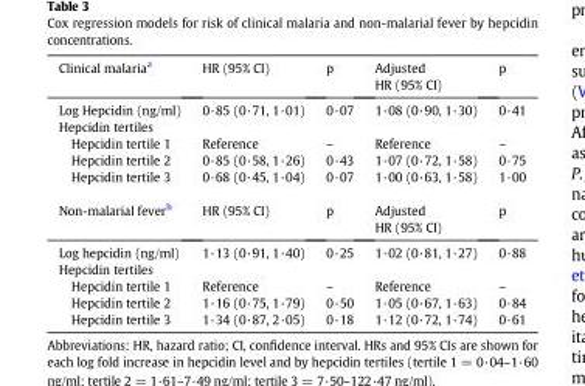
<table><thead><tr><td>Clinical malaria<sup>a</sup></td><td>HR (95% CI)</td><td>p</td><td>Adjusted HR (95% CI)</td><td>p</td></tr></thead><tbody><tr><td>Log Hepcidin (ng/ml)</td><td>0·85 (0·71, 1·01)</td><td>0·07</td><td>1·08 (0·90, 1·30)</td><td>0·41</td></tr><tr><td colspan="5">Hepcidin tertiles</td></tr><tr><td>Hepcidin tertile 1</td><td>Reference</td><td>–</td><td>Reference</td><td>–</td></tr><tr><td>Hepcidin tertile 2</td><td>0·85 (0·58, 1·26)</td><td>0·43</td><td>1·07 (0·72, 1·58)</td><td>0·75</td></tr><tr><td>Hepcidin tertile 3</td><td>0·68 (0·45, 1·04)</td><td>0·07</td><td>1·00 (0·63, 1·58)</td><td>1·00</td></tr><tr><td>Non-malarial fever<sup>b</sup></td><td>HR (95% CI)</td><td>p</td><td>Adjusted HR (95% CI)</td><td>p</td></tr><tr><td>Log hepcidin (ng/ml)</td><td>1·13 (0·91, 1·40)</td><td>0·25</td><td>1·02 (0·81, 1·27)</td><td>0·88</td></tr><tr><td colspan="5">Hepcidin tertiles</td></tr><tr><td>Hepcidin tertile 1</td><td>Reference</td><td>–</td><td>Reference</td><td>–</td></tr><tr><td>Hepcidin tertile 2</td><td>1·16 (0·75, 1·79)</td><td>0·50</td><td>1·05 (0·67, 1·63)</td><td>0·84</td></tr><tr><td>Hepcidin tertile 3</td><td>1·34 (0·87, 2·05)</td><td>0·18</td><td>1·12 (0·72, 1·74)</td><td>0·61</td></tr></tbody></table>